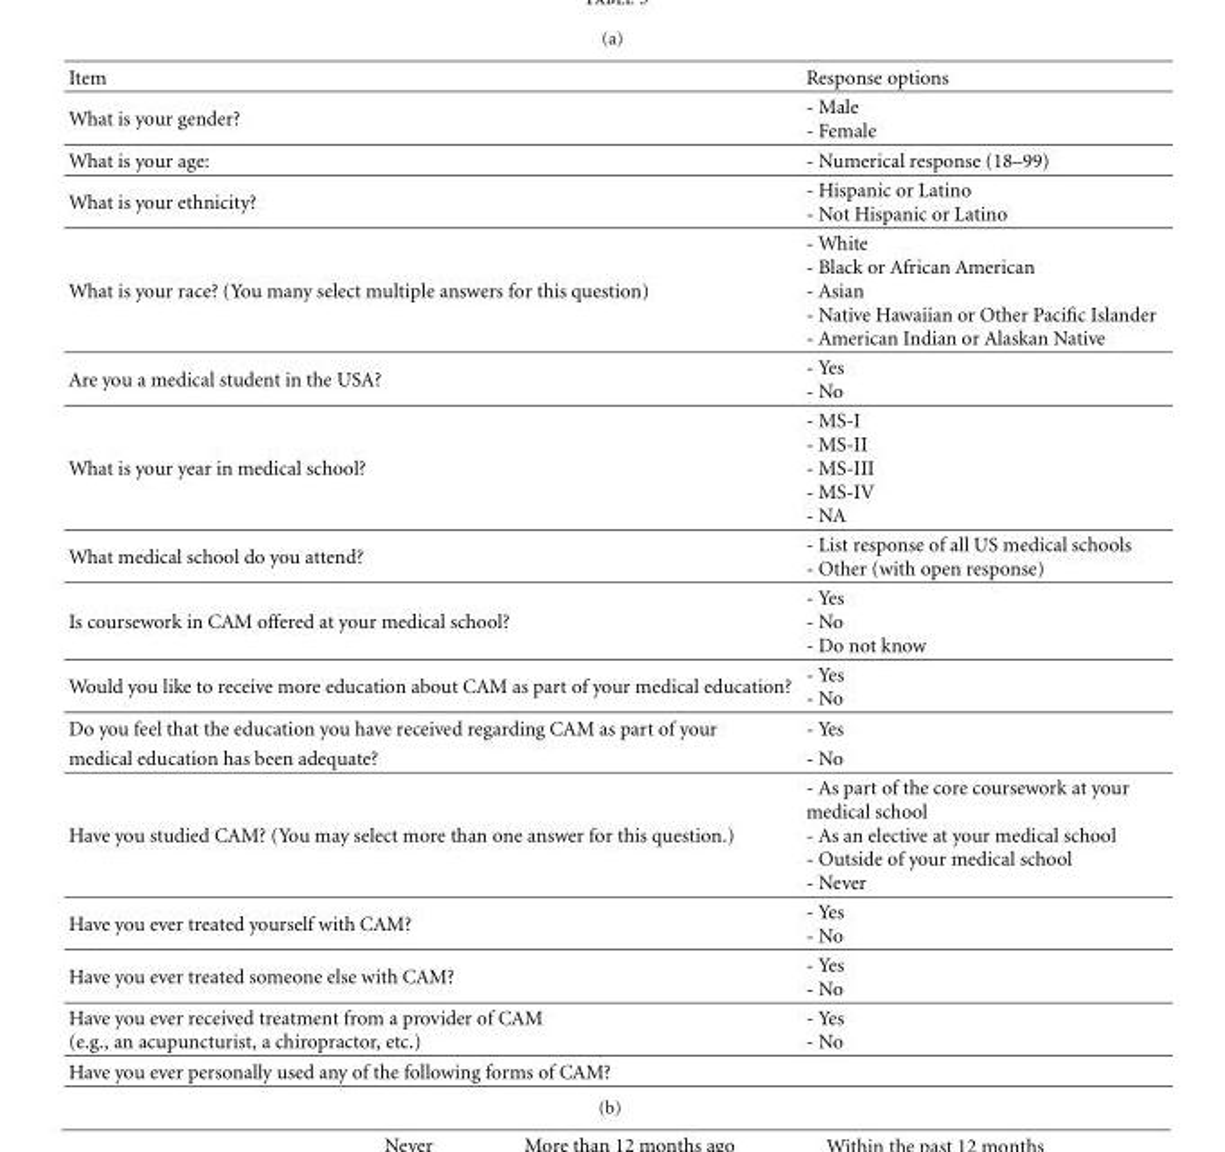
<table><thead><tr><td>Item</td><td>Response options</td></tr></thead><tbody><tr><td>What is your gender?</td><td>- Male - Female</td></tr><tr><td>What is your age:</td><td>- Numerical response (18–99)</td></tr><tr><td>What is your ethnicity?</td><td>- Hispanic or Latino - Not Hispanic or Latino</td></tr><tr><td>What is your race? (You many select multiple answers for this question)</td><td>- White - Black or African American - Asian - Native Hawaiian or Other Pacific Islander - American Indian or Alaskan Native</td></tr><tr><td>Are you a medical student in the USA?</td><td>- Yes - No</td></tr><tr><td>What is your year in medical school?</td><td>- MS-I - MS-II - MS-III - MS-IV - NA</td></tr><tr><td>What medical school do you attend?</td><td>- List response of all US medical schools - Other (with open response)</td></tr><tr><td>Is coursework in CAM offered at your medical school?</td><td>- Yes - No - Do not know</td></tr><tr><td>Would you like to receive more education about CAM as part of your medical education?</td><td>- Yes - No</td></tr><tr><td>Do you feel that the education you have received regarding CAM as part of your</td><td>- Yes</td></tr><tr><td>medical education has been adequate?</td><td>- No</td></tr><tr><td>Have you studied CAM? (You may select more than one answer for this question.)</td><td>- As part of the core coursework at your medical school - As an elective at your medical school - Outside of your medical school - Never</td></tr><tr><td>Have you ever treated yourself with CAM?</td><td>- Yes - No</td></tr><tr><td>Have you ever treated someone else with CAM?</td><td>- Yes - No</td></tr><tr><td>Have you ever received treatment from a provider of CAM (e.g., an acupuncturist, a chiropractor, etc.)</td><td>- Yes - No</td></tr><tr><td>Have you ever personally used any of the following forms of CAM?</td><td></td></tr></tbody></table>